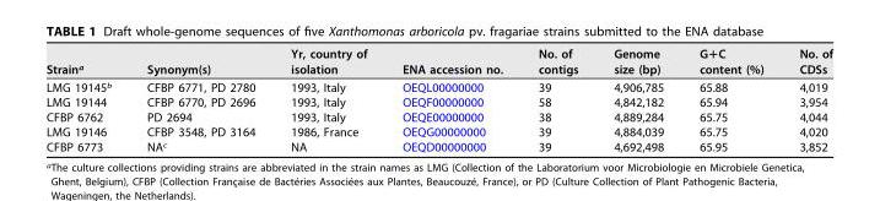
<table><thead><tr><td>Strain<sup>a</sup></td><td>Synonym(s)</td><td>Yr, country of isolation</td><td>ENA accession no.</td><td>No. of contigs</td><td>Genome size (bp)</td><td>G+C content (%)</td><td>No. of CDSs</td></tr></thead><tbody><tr><td>LMG 19145<sup>b</sup></td><td>CFBP 6771, PD 2780</td><td>1993, Italy</td><td>OEQL00000000</td><td>39</td><td>4,906,785</td><td>65.88</td><td>4,019</td></tr><tr><td>LMG 19144</td><td>CFBP 6770, PD 2696</td><td>1993, Italy</td><td>OEQF00000000</td><td>58</td><td>4,842,182</td><td>65.94</td><td>3,954</td></tr><tr><td>CFBP 6762</td><td>PD 2694</td><td>1993, Italy</td><td>OEQE00000000</td><td>38</td><td>4,889,284</td><td>65.75</td><td>4,044</td></tr><tr><td>LMG 19146</td><td>CFBP 3548, PD 3164</td><td>1986, France</td><td>OEQG00000000</td><td>39</td><td>4,884,039</td><td>65.75</td><td>4,020</td></tr><tr><td>CFBP 6773</td><td>NA<sup>c</sup></td><td>NA</td><td>OEQD00000000</td><td>39</td><td>4,692,498</td><td>65.95</td><td>3,852</td></tr></tbody></table>